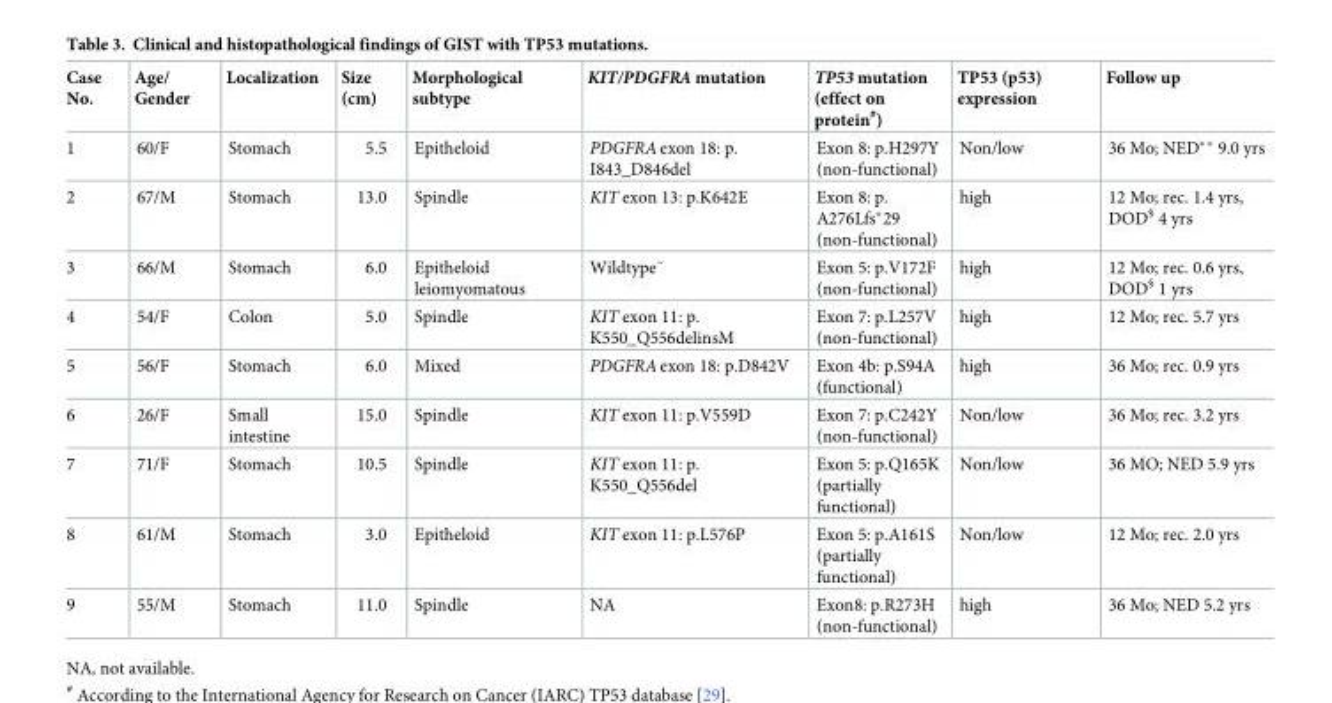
<table><thead><tr><td>Case No.</td><td>Age/ Gender</td><td>Localization</td><td>Size (cm)</td><td>Morphological subtype</td><td>KIT/PDGFRA mutation</td><td>TP53 mutation (effect on protein<sup>#</sup>)</td><td>TP53 (p53) expression</td><td>Follow up</td></tr></thead><tbody><tr><td>1</td><td>60/F</td><td>Stomach</td><td>5.5</td><td>Epitheloid</td><td>PDGFRA exon 18: p. I843_D846del</td><td>Exon 8: p.H297Y (non-functional)</td><td>Non/low</td><td>36 Mo; NED** 9.0 yrs</td></tr><tr><td>2</td><td>67/M</td><td>Stomach</td><td>13.0</td><td>Spindle</td><td>KIT exon 13: p.K642E</td><td>Exon 8: p. A276Lfs*29 (non-functional)</td><td>high</td><td>12 Mo; rec. 1.4 yrs, DOD<sup>§</sup> 4 yrs</td></tr><tr><td>3</td><td>66/M</td><td>Stomach</td><td>6.0</td><td>Epitheloid leiomyomatous</td><td>Wildtype<sup>~</sup></td><td>Exon 5: p.V172F (non-functional)</td><td>high</td><td>12 Mo; rec. 0.6 yrs, DOD<sup>§</sup> 1 yrs</td></tr><tr><td>4</td><td>54/F</td><td>Colon</td><td>5.0</td><td>Spindle</td><td>KIT exon 11: p. K550_Q556delinsM</td><td>Exon 7: p.L257V (non-functional)</td><td>high</td><td>12 Mo; rec. 5.7 yrs</td></tr><tr><td>5</td><td>56/F</td><td>Stomach</td><td>6.0</td><td>Mixed</td><td>PDGFRA exon 18: p.D842V</td><td>Exon 4b: p.S94A (functional)</td><td>high</td><td>36 Mo; rec. 0.9 yrs</td></tr><tr><td>6</td><td>26/F</td><td>Small intestine</td><td>15.0</td><td>Spindle</td><td>KIT exon 11: p.V559D</td><td>Exon 7: p.C242Y (non-functional)</td><td>Non/low</td><td>36 Mo; rec. 3.2 yrs</td></tr><tr><td>7</td><td>71/F</td><td>Stomach</td><td>10.5</td><td>Spindle</td><td>KIT exon 11: p. K550_Q556del</td><td>Exon 5: p.Q165K (partially functional)</td><td>Non/low</td><td>36 MO; NED 5.9 yrs</td></tr><tr><td>8</td><td>61/M</td><td>Stomach</td><td>3.0</td><td>Epitheloid</td><td>KIT exon 11: p.L576P</td><td>Exon 5: p.A161S (partially functional)</td><td>Non/low</td><td>12 Mo; rec. 2.0 yrs</td></tr><tr><td>9</td><td>55/M</td><td>Stomach</td><td>11.0</td><td>Spindle</td><td>NA</td><td>Exon8: p.R273H (non-functional)</td><td>high</td><td>36 Mo; NED 5.2 yrs</td></tr></tbody></table>